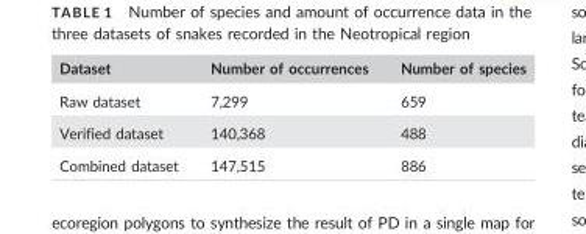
<table><thead><tr><td>Dataset</td><td>Number of occurrences</td><td>Number of species</td></tr></thead><tbody><tr><td>Raw dataset</td><td>7,299</td><td>659</td></tr><tr><td>Verified dataset</td><td>140,368</td><td>488</td></tr><tr><td>Combined dataset</td><td>147,515</td><td>886</td></tr></tbody></table>